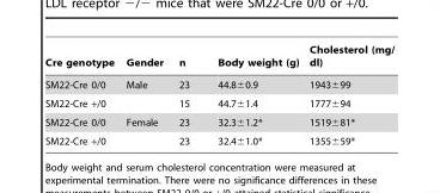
<table><thead><tr><td>Cre genotype</td><td>Gender</td><td>n</td><td>Body weight (g)</td><td>Cholesterol (mg/ dl)</td></tr></thead><tbody><tr><td>SM22-Cre 0/0</td><td>Male</td><td>23</td><td>44.8±0.9</td><td>1943±99</td></tr><tr><td>SM22-Cre +/0</td><td></td><td>15</td><td>44.7±1.4</td><td>1777±94</td></tr><tr><td>SM22-Cre 0/0</td><td>Female</td><td>23</td><td>32.3±1.2*</td><td>1519±81*</td></tr><tr><td>SM22-Cre +/0</td><td></td><td>23</td><td>32.4±1.0*</td><td>1355±59*</td></tr></tbody></table>